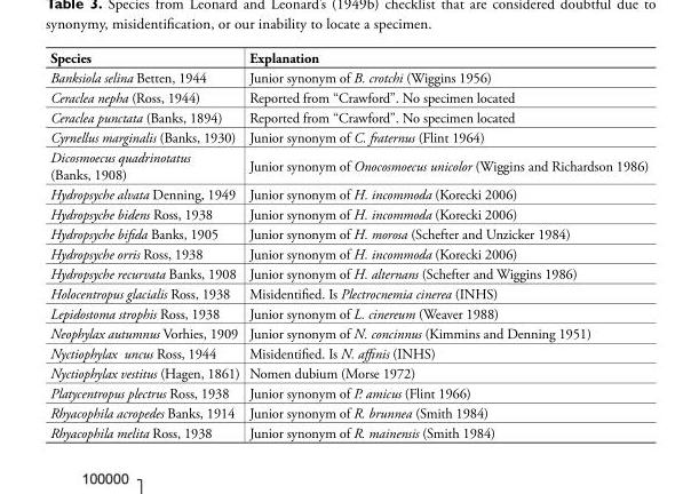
<table><thead><tr><td>Species</td><td>Explanation</td></tr></thead><tbody><tr><td>Banksiola selina Betten, 1944</td><td>Junior synonym of B. crotchi (Wiggins 1956)</td></tr><tr><td>Ceraclea nepha (Ross, 1944)</td><td>Reported from “Crawford”. No specimen located</td></tr><tr><td>Ceraclea punctata (Banks, 1894)</td><td>Reported from “Crawford”. No specimen located</td></tr><tr><td>Cyrnellus marginalis (Banks, 1930)</td><td>Junior synonym of C. fraternus (Flint 1964)</td></tr><tr><td>Dicosmoecus quadrinotatus (Banks, 1908)</td><td>Junior synonym of Onocosmoecus unicolor (Wiggins and Richardson 1986)</td></tr><tr><td>Hydropsyche alvata Denning, 1949</td><td>Junior synonym of H. incommoda (Korecki 2006)</td></tr><tr><td>Hydropsyche bidens Ross, 1938</td><td>Junior synonym of H. incommoda (Korecki 2006)</td></tr><tr><td>Hydropsyche bifida Banks, 1905</td><td>Junior synonym of H. morosa (Schefter and Unzicker 1984)</td></tr><tr><td>Hydropsyche orris Ross, 1938</td><td>Junior synonym of H. incommoda (Korecki 2006)</td></tr><tr><td>Hydropsyche recurvata Banks, 1908</td><td>Junior synonym of H. alternans (Schefter and Wiggins 1986)</td></tr><tr><td>Holocentropus glacialis Ross, 1938</td><td>Misidentified. Is Plectrocnemia cinerea (INHS)</td></tr><tr><td>Lepidostoma strophis Ross, 1938</td><td>Junior synonym of L. cinereum (Weaver 1988)</td></tr><tr><td>Neophylax autumnus Vorhies, 1909</td><td>Junior synonym of N. concinnus (Kimmins and Denning 1951)</td></tr><tr><td>Nyctiophylax uncus Ross, 1944</td><td>Misidentified. Is N. affinis (INHS)</td></tr><tr><td>Nyctiophylax vestitus (Hagen, 1861)</td><td>Nomen dubium (Morse 1972)</td></tr><tr><td>Platycentropus plectrus Ross, 1938</td><td>Junior synonym of P. amicus (Flint 1966)</td></tr><tr><td>Rhyacophila acropedes Banks, 1914</td><td>Junior synonym of R. brunnea (Smith 1984)</td></tr><tr><td>Rhyacophila melita Ross, 1938</td><td>Junior synonym of R. mainensis (Smith 1984)</td></tr></tbody></table>